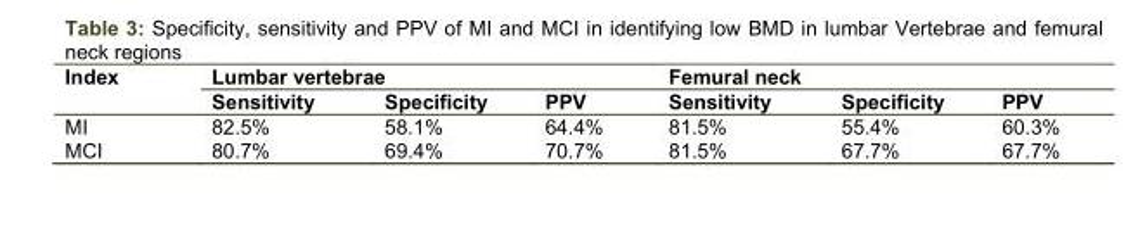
<table><thead><tr><td rowspan="2">Index</td><td colspan="3">Lumbar vertebrae</td><td colspan="3">Femural neck</td></tr><tr><td>Sensitivity</td><td>Specificity</td><td>PPV</td><td>Sensitivity</td><td>Specificity</td><td>PPV</td></tr></thead><tbody><tr><td>MI</td><td>82.5%</td><td>58.1%</td><td>64.4%</td><td>81.5%</td><td>55.4%</td><td>60.3%</td></tr><tr><td>MCI</td><td>80.7%</td><td>69.4%</td><td>70.7%</td><td>81.5%</td><td>67.7%</td><td>67.7%</td></tr></tbody></table>